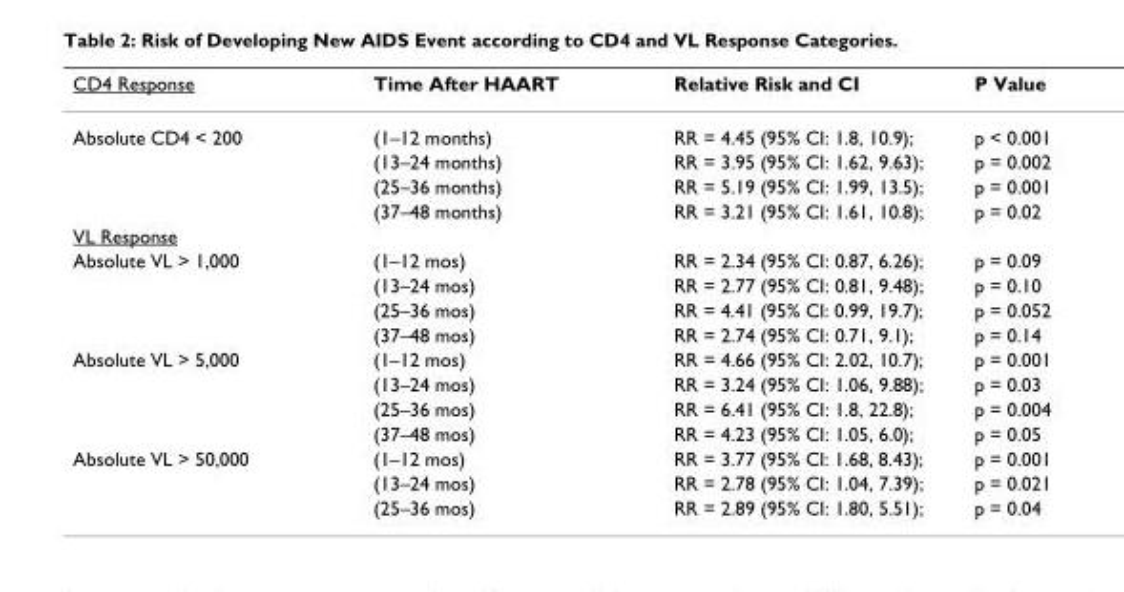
<table><thead><tr><td>CD4 Response</td><td>Time After HAART</td><td>Relative Risk and CI</td><td>P Value</td></tr></thead><tbody><tr><td rowspan="4">Absolute CD4 &lt; 200</td><td>(1–12 months)</td><td>RR = 4.45 (95% CI: 1.8, 10.9);</td><td>p &lt; 0.001</td></tr><tr><td>(13–24 months)</td><td>RR = 3.95 (95% CI: 1.62, 9.63);</td><td>p = 0.002</td></tr><tr><td>(25–36 months)</td><td>RR = 5.19 (95% CI: 1.99, 13.5);</td><td>p = 0.001</td></tr><tr><td>(37–48 months)</td><td>RR = 3.21 (95% CI: 1.61, 10.8);</td><td>p = 0.02</td></tr><tr><td colspan="4">VL Response</td></tr><tr><td rowspan="4">Absolute VL &gt; 1,000</td><td>(1–12 mos)</td><td>RR = 2.34 (95% CI: 0.87, 6.26);</td><td>p = 0.09</td></tr><tr><td>(13–24 mos)</td><td>RR = 2.77 (95% CI: 0.81, 9.48);</td><td>p = 0.10</td></tr><tr><td>(25–36 mos)</td><td>RR = 4.41 (95% CI: 0.99, 19.7);</td><td>p = 0.052</td></tr><tr><td>(37–48 mos)</td><td>RR = 2.74 (95% CI: 0.71, 9.1);</td><td>p = 0.14</td></tr><tr><td rowspan="4">Absolute VL &gt; 5,000</td><td>(1–12 mos)</td><td>RR = 4.66 (95% CI: 2.02, 10.7);</td><td>p = 0.001</td></tr><tr><td>(13–24 mos)</td><td>RR = 3.24 (95% CI: 1.06, 9.88);</td><td>p = 0.03</td></tr><tr><td>(25–36 mos)</td><td>RR = 6.41 (95% CI: 1.8, 22.8);</td><td>p = 0.004</td></tr><tr><td>(37–48 mos)</td><td>RR = 4.23 (95% CI: 1.05, 6.0);</td><td>p = 0.05</td></tr><tr><td rowspan="3">Absolute VL &gt; 50,000</td><td>(1–12 mos)</td><td>RR = 3.77 (95% CI: 1.68, 8.43);</td><td>p = 0.001</td></tr><tr><td>(13–24 mos)</td><td>RR = 2.78 (95% CI: 1.04, 7.39);</td><td>p = 0.021</td></tr><tr><td>(25–36 mos)</td><td>RR = 2.89 (95% CI: 1.80, 5.51);</td><td>p = 0.04</td></tr></tbody></table>